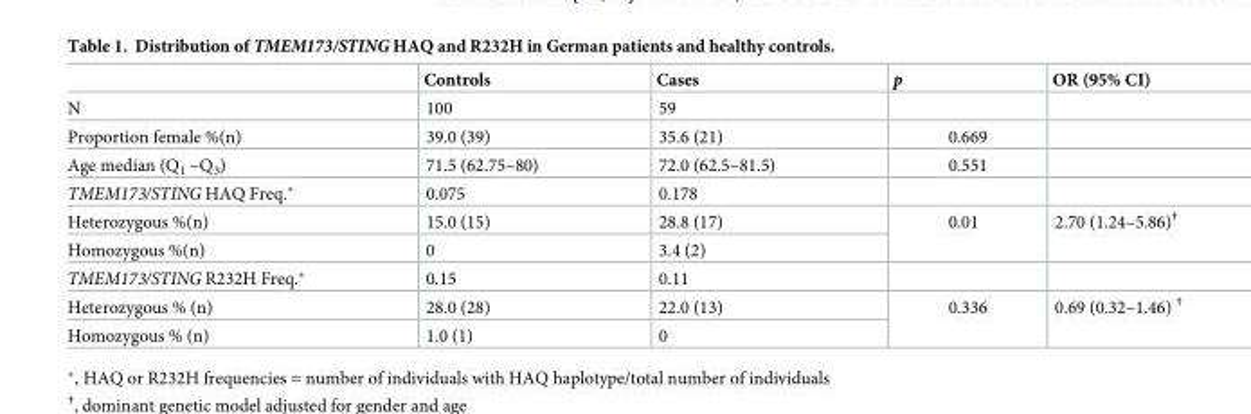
<table><thead><tr><td></td><td>Controls</td><td>Cases</td><td>p</td><td>OR (95% CI)</td></tr></thead><tbody><tr><td>N</td><td>100</td><td>59</td><td></td><td></td></tr><tr><td>Proportion female %(n)</td><td>39.0 (39)</td><td>35.6 (21)</td><td>0.669</td><td></td></tr><tr><td>Age median (Q<sub>1</sub> –Q<sub>3</sub>)</td><td>71.5 (62.75–80)</td><td>72.0 (62.5–81.5)</td><td>0.551</td><td></td></tr><tr><td>TMEM173/STING HAQ Freq.*</td><td>0.075</td><td>0.178</td><td></td><td></td></tr><tr><td>Heterozygous %(n)</td><td>15.0 (15)</td><td>28.8 (17)</td><td rowspan="2">0.01</td><td rowspan="2">2.70 (1.24–5.86)<sup>†</sup></td></tr><tr><td>Homozygous %(n)</td><td>0</td><td>3.4 (2)</td></tr><tr><td>TMEM173/STING R232H Freq.*</td><td>0.15</td><td>0.11</td><td></td><td></td></tr><tr><td>Heterozygous % (n)</td><td>28.0 (28)</td><td>22.0 (13)</td><td rowspan="2">0.336</td><td rowspan="2">0.69 (0.32–1.46) <sup>†</sup></td></tr><tr><td>Homozygous % (n)</td><td>1.0 (1)</td><td>0</td></tr></tbody></table>